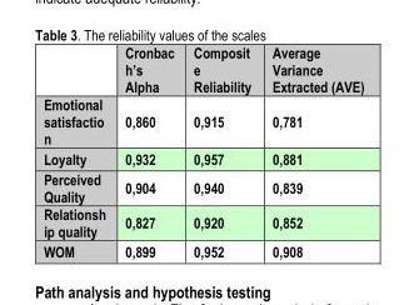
<table><thead><tr><td></td><td>Cronbac h’s Alpha</td><td>Composit e Reliability</td><td>Average Variance Extracted (AVE)</td></tr></thead><tbody><tr><td>Emotional satisfactio n</td><td>0,860</td><td>0,915</td><td>0,781</td></tr><tr><td>Loyalty</td><td>0,932</td><td>0,957</td><td>0,881</td></tr><tr><td>Perceived Quality</td><td>0,904</td><td>0,940</td><td>0,839</td></tr><tr><td>Relationsh ip quality</td><td>0,827</td><td>0,920</td><td>0,852</td></tr><tr><td>WOM</td><td>0,899</td><td>0,952</td><td>0,908</td></tr></tbody></table>